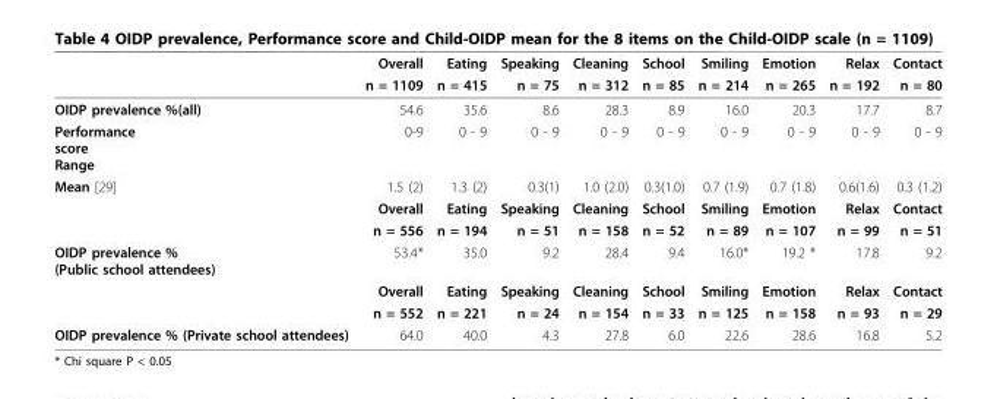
<table><thead><tr><td rowspan="2"></td><td rowspan="2">Overall n = 1109</td><td rowspan="2">Eating n = 415</td><td rowspan="2">Speaking n = 75</td><td rowspan="2">Cleaning n = 312</td><td rowspan="2">School n = 85</td><td rowspan="2">Smiling n = 214</td><td rowspan="2">Emotion n = 265</td><td rowspan="2">Relax n = 192</td><td rowspan="2">Contact n = 80</td></tr><tr></tr></thead><tbody><tr><td>OIDP prevalence %(all)</td><td>54.6</td><td>35.6</td><td>8.6</td><td>28.3</td><td>8.9</td><td>16.0</td><td>20.3</td><td>17.7</td><td>8.7</td></tr><tr><td>Performance score Range</td><td>0-9</td><td>0 - 9</td><td>0 - 9</td><td>0 - 9</td><td>0 - 9</td><td>0 - 9</td><td>0 - 9</td><td>0 - 9</td><td>0 - 9</td></tr><tr><td rowspan="3">Mean [29]</td><td>1.5 (2)</td><td>1.3 (2)</td><td>0.3(1)</td><td>1.0 (2.0)</td><td>0.3(1.0)</td><td>0.7 (1.9)</td><td>0.7 (1.8)</td><td>0.6(1.6)</td><td>0.3 (1.2)</td></tr><tr><td>Overall</td><td>Eating</td><td>Speaking</td><td>Cleaning</td><td>School</td><td>Smiling</td><td>Emotion</td><td>Relax</td><td>Contact</td></tr><tr><td>n = 556</td><td>n = 194</td><td>n = 51</td><td>n = 158</td><td>n = 52</td><td>n = 89</td><td>n = 107</td><td>n = 99</td><td>n = 51</td></tr><tr><td rowspan="3">OIDP prevalence % (Public school attendees)</td><td>53.4*</td><td>35.0</td><td>9.2</td><td>28.4</td><td>9.4</td><td>16.0*</td><td>19.2 *</td><td>17.8</td><td>9.2</td></tr><tr><td>Overall</td><td>Eating</td><td>Speaking</td><td>Cleaning</td><td>School</td><td>Smiling</td><td>Emotion</td><td>Relax</td><td>Contact</td></tr><tr><td>n = 552</td><td>n = 221</td><td>n = 24</td><td>n = 154</td><td>n = 33</td><td>n = 125</td><td>n = 158</td><td>n = 93</td><td>n = 29</td></tr><tr><td>OIDP prevalence % (Private school attendees)</td><td>64.0</td><td>40.0</td><td>4.3</td><td>27.8</td><td>6.0</td><td>22.6</td><td>28.6</td><td>16.8</td><td>5.2</td></tr></tbody></table>